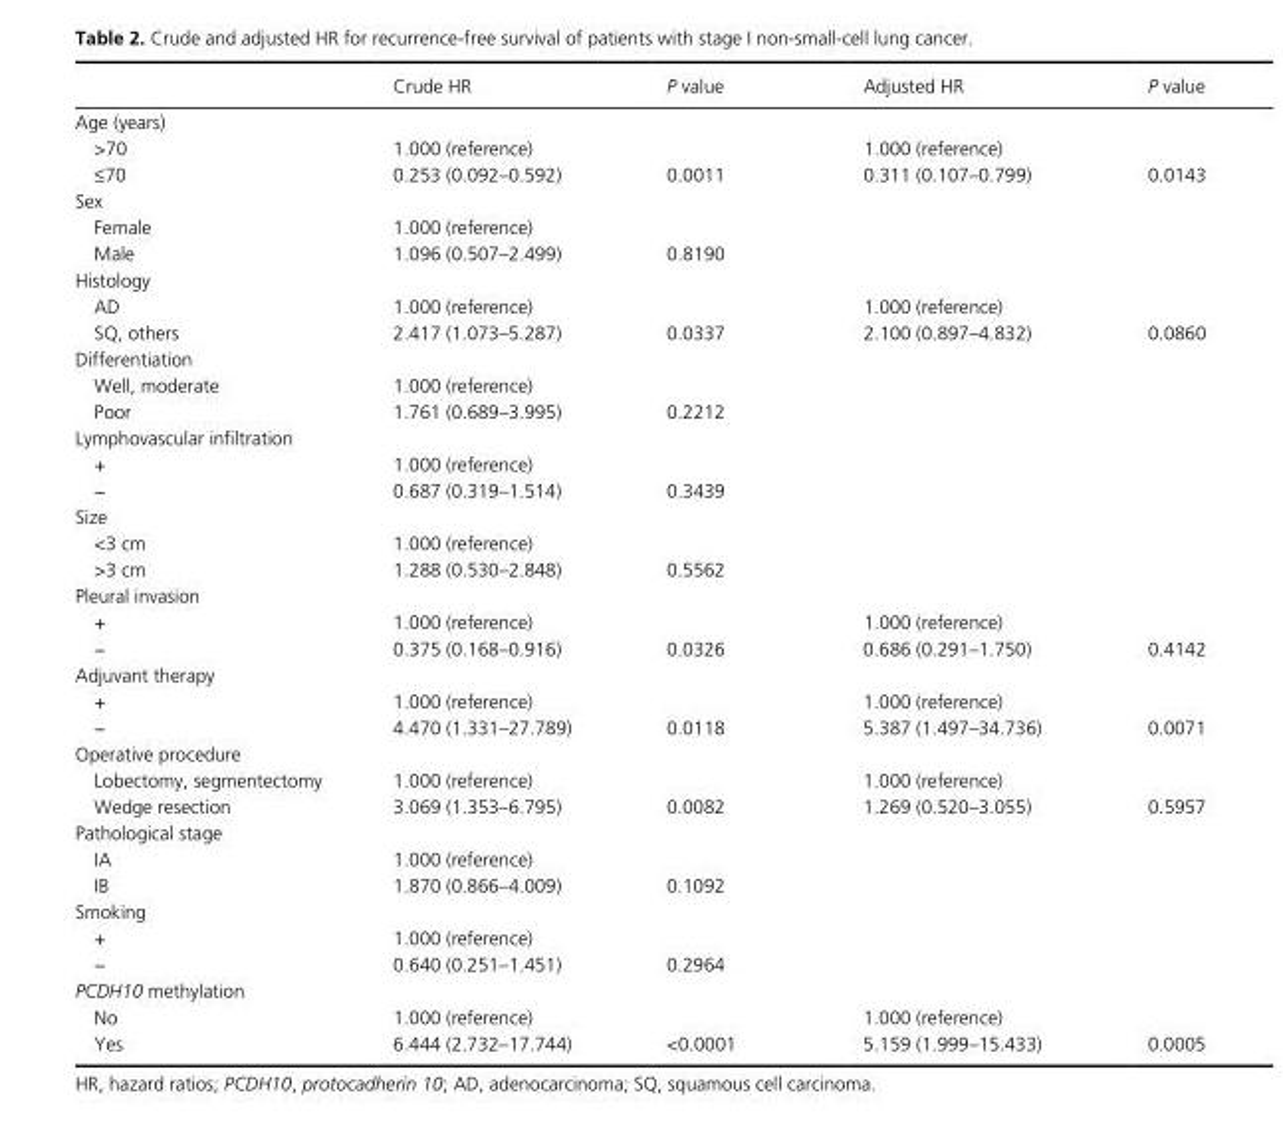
<table><thead><tr><td></td><td>Crude HR</td><td>P value</td><td>Adjusted HR</td><td>P value</td></tr></thead><tbody><tr><td colspan="5">Age (years)</td></tr><tr><td>&gt;70</td><td>1.000 (reference)</td><td></td><td>1.000 (reference)</td><td></td></tr><tr><td>≤70</td><td>0.253 (0.092–0.592)</td><td>0.0011</td><td>0.311 (0.107–0.799)</td><td>0.0143</td></tr><tr><td colspan="5">Sex</td></tr><tr><td>Female</td><td>1.000 (reference)</td><td></td><td></td><td></td></tr><tr><td>Male</td><td>1.096 (0.507–2.499)</td><td>0.8190</td><td></td><td></td></tr><tr><td colspan="5">Histology</td></tr><tr><td>AD</td><td>1.000 (reference)</td><td></td><td>1.000 (reference)</td><td></td></tr><tr><td>SQ, others</td><td>2.417 (1.073–5.287)</td><td>0.0337</td><td>2.100 (0.897–4.832)</td><td>0.0860</td></tr><tr><td colspan="5">Differentiation</td></tr><tr><td>Well, moderate</td><td>1.000 (reference)</td><td></td><td></td><td></td></tr><tr><td>Poor</td><td>1.761 (0.689–3.995)</td><td>0.2212</td><td></td><td></td></tr><tr><td colspan="5">Lymphovascular infiltration</td></tr><tr><td>+</td><td>1.000 (reference)</td><td></td><td></td><td></td></tr><tr><td>−</td><td>0.687 (0.319–1.514)</td><td>0.3439</td><td></td><td></td></tr><tr><td colspan="5">Size</td></tr><tr><td>&lt;3 cm</td><td>1.000 (reference)</td><td></td><td></td><td></td></tr><tr><td>&gt;3 cm</td><td>1.288 (0.530–2.848)</td><td>0.5562</td><td></td><td></td></tr><tr><td colspan="5">Pleural invasion</td></tr><tr><td>+</td><td>1.000 (reference)</td><td></td><td>1.000 (reference)</td><td></td></tr><tr><td>−</td><td>0.375 (0.168–0.916)</td><td>0.0326</td><td>0.686 (0.291–1.750)</td><td>0.4142</td></tr><tr><td colspan="5">Adjuvant therapy</td></tr><tr><td>+</td><td>1.000 (reference)</td><td></td><td>1.000 (reference)</td><td></td></tr><tr><td>−</td><td>4.470 (1.331–27.789)</td><td>0.0118</td><td>5.387 (1.497–34.736)</td><td>0.0071</td></tr><tr><td colspan="5">Operative procedure</td></tr><tr><td>Lobectomy, segmentectomy</td><td>1.000 (reference)</td><td></td><td>1.000 (reference)</td><td></td></tr><tr><td>Wedge resection</td><td>3.069 (1.353–6.795)</td><td>0.0082</td><td>1.269 (0.520–3.055)</td><td>0.5957</td></tr><tr><td colspan="5">Pathological stage</td></tr><tr><td>IA</td><td>1.000 (reference)</td><td></td><td></td><td></td></tr><tr><td>IB</td><td>1.870 (0.866–4.009)</td><td>0.1092</td><td></td><td></td></tr><tr><td colspan="5">Smoking</td></tr><tr><td>+</td><td>1.000 (reference)</td><td></td><td></td><td></td></tr><tr><td>−</td><td>0.640 (0.251–1.451)</td><td>0.2964</td><td></td><td></td></tr><tr><td colspan="5">PCDH10 methylation</td></tr><tr><td>No</td><td>1.000 (reference)</td><td></td><td>1.000 (reference)</td><td></td></tr><tr><td>Yes</td><td>6.444 (2.732–17.744)</td><td>&lt;0.0001</td><td>5.159 (1.999–15.433)</td><td>0.0005</td></tr></tbody></table>